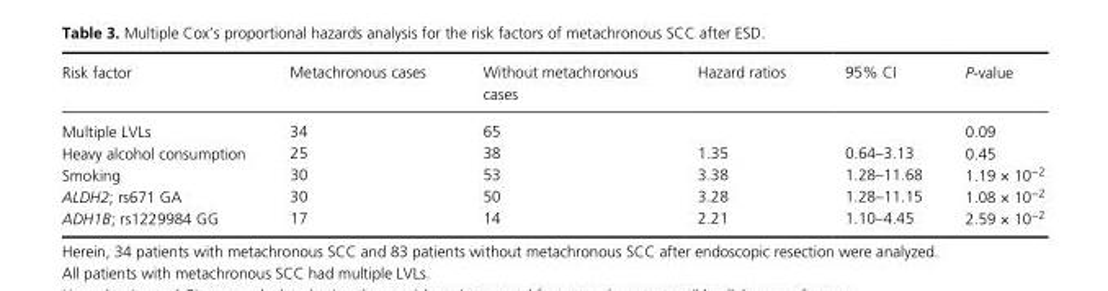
<table><thead><tr><td>Risk factor</td><td>Metachronous cases</td><td>Without metachronous cases</td><td>Hazard ratios</td><td>95% CI</td><td>P- value</td></tr></thead><tbody><tr><td>Multiple LVLs</td><td>34</td><td>65</td><td></td><td></td><td>0.09</td></tr><tr><td>Heavy alcohol consumption</td><td>25</td><td>38</td><td>1.35</td><td>0.64–3.13</td><td>0.45</td></tr><tr><td>Smoking</td><td>30</td><td>53</td><td>3.38</td><td>1.28–11.68</td><td>1.19 × 10<sup>−2</sup></td></tr><tr><td>ALDH2; rs671 GA</td><td>30</td><td>50</td><td>3.28</td><td>1.28–11.15</td><td>1.08 × 10<sup>−2</sup></td></tr><tr><td>ADH1B; rs1229984 GG</td><td>17</td><td>14</td><td>2.21</td><td>1.10–4.45</td><td>2.59 × 10<sup>−2</sup></td></tr></tbody></table>